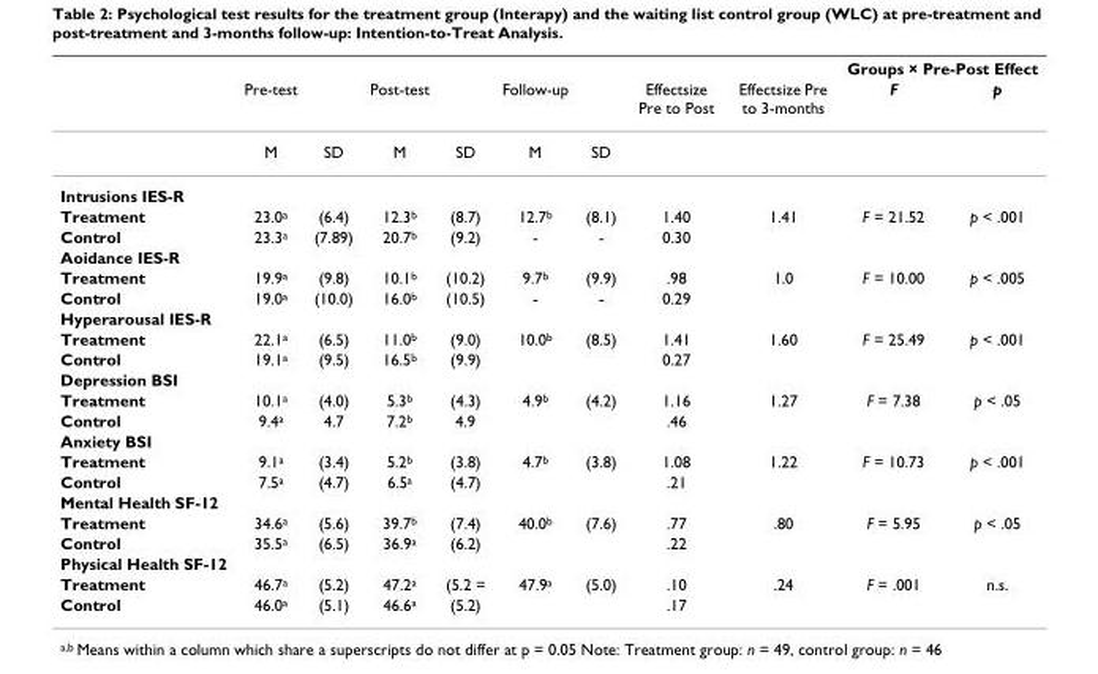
<table><thead><tr><td rowspan="2"></td><td rowspan="2">Pre-test</td><td rowspan="2"></td><td rowspan="2">Post-test</td><td rowspan="2"></td><td rowspan="2">Follow-up</td><td rowspan="2"></td><td rowspan="2">Effectsize Pre to Post</td><td rowspan="2">Effectsize Pre to 3-months</td><td colspan="2">Groups × Pre-Post Effect</td></tr><tr><td>F</td><td>p</td></tr></thead><tbody><tr><td></td><td>M</td><td>SD</td><td>M</td><td>SD</td><td>M</td><td>SD</td><td></td><td></td><td></td><td></td></tr><tr><td colspan="11">Intrusions IES-R</td></tr><tr><td>Treatment</td><td>23.0<sup>a</sup></td><td>(6.4)</td><td>12.3<sup>b</sup></td><td>(8.7)</td><td>12.7<sup>b</sup></td><td>(8.1)</td><td>1.40</td><td>1.41</td><td>F = 21.52</td><td>p &lt; .001</td></tr><tr><td>Control</td><td>23.3<sup>a</sup></td><td>(7.89)</td><td>20.7<sup>b</sup></td><td>(9.2)</td><td>-</td><td>-</td><td>0.30</td><td></td><td></td><td></td></tr><tr><td colspan="11">Aoidance IES-R</td></tr><tr><td>Treatment</td><td>19.9<sup>a</sup></td><td>(9.8)</td><td>10.1<sup>b</sup></td><td>(10.2)</td><td>9.7<sup>b</sup></td><td>(9.9)</td><td>.98</td><td>1.0</td><td>F = 10.00</td><td>p &lt; .005</td></tr><tr><td>Control</td><td>19.0<sup>a</sup></td><td>(10.0)</td><td>16.0<sup>b</sup></td><td>(10.5)</td><td>-</td><td>-</td><td>0.29</td><td></td><td></td><td></td></tr><tr><td colspan="11">Hyperarousal IES-R</td></tr><tr><td>Treatment</td><td>22.1<sup>a</sup></td><td>(6.5)</td><td>11.0<sup>b</sup></td><td>(9.0)</td><td>10.0<sup>b</sup></td><td>(8.5)</td><td>1.41</td><td>1.60</td><td>F = 25.49</td><td>p &lt; .001</td></tr><tr><td>Control</td><td>19.1<sup>a</sup></td><td>(9.5)</td><td>16.5<sup>b</sup></td><td>(9.9)</td><td></td><td></td><td>0.27</td><td></td><td></td><td></td></tr><tr><td colspan="11">Depression BSI</td></tr><tr><td>Treatment</td><td>10.1<sup>a</sup></td><td>(4.0)</td><td>5.3<sup>b</sup></td><td>(4.3)</td><td>4.9<sup>b</sup></td><td>(4.2)</td><td>1.16</td><td>1.27</td><td>F = 7.38</td><td>p &lt; .05</td></tr><tr><td>Control</td><td>9.4<sup>a</sup></td><td>4.7</td><td>7.2<sup>b</sup></td><td>4.9</td><td></td><td></td><td>.46</td><td></td><td></td><td></td></tr><tr><td colspan="11">Anxiety BSI</td></tr><tr><td>Treatment</td><td>9.1<sup>a</sup></td><td>(3.4)</td><td>5.2<sup>b</sup></td><td>(3.8)</td><td>4.7<sup>b</sup></td><td>(3.8)</td><td>1.08</td><td>1.22</td><td>F = 10.73</td><td>p &lt; .001</td></tr><tr><td>Control</td><td>7.5<sup>a</sup></td><td>(4.7)</td><td>6.5<sup>a</sup></td><td>(4.7)</td><td></td><td></td><td>.21</td><td></td><td></td><td></td></tr><tr><td colspan="11">Mental Health SF-12</td></tr><tr><td>Treatment</td><td>34.6<sup>a</sup></td><td>(5.6)</td><td>39.7<sup>b</sup></td><td>(7.4)</td><td>40.0<sup>b</sup></td><td>(7.6)</td><td>.77</td><td>.80</td><td>F = 5.95</td><td>p &lt; .05</td></tr><tr><td>Control</td><td>35.5<sup>a</sup></td><td>(6.5)</td><td>36.9<sup>a</sup></td><td>(6.2)</td><td></td><td></td><td>.22</td><td></td><td></td><td></td></tr><tr><td colspan="11">Physical Health SF-12</td></tr><tr><td>Treatment</td><td>46.7<sup>a</sup></td><td>(5.2)</td><td>47.2<sup>a</sup></td><td>(5.2 =</td><td>47.9<sup>a</sup></td><td>(5.0)</td><td>.10</td><td>.24</td><td>F = .001</td><td>n.s.</td></tr><tr><td>Control</td><td>46.0<sup>a</sup></td><td>(5.1)</td><td>46.6<sup>a</sup></td><td>(5.2)</td><td></td><td></td><td>.17</td><td></td><td></td><td></td></tr></tbody></table>